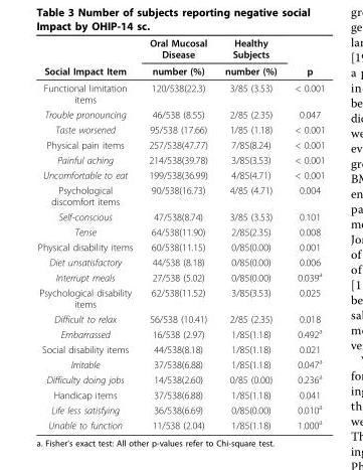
<table><thead><tr><td rowspan="2">Social Impact Item</td><td rowspan="2">Oral Mucosal Disease number (%)</td><td rowspan="2">Healthy Subjects number (%)</td><td rowspan="2">p</td></tr><tr></tr></thead><tbody><tr><td>Functional limitation items</td><td>120/538(22.3)</td><td>3/85 (3.53)</td><td>&lt; 0.001</td></tr><tr><td>Trouble pronouncing</td><td>46/538 (8.55)</td><td>2/85 (2.35)</td><td>0.047</td></tr><tr><td>Taste worsened</td><td>95/538 (17.66)</td><td>1/85 (1.18)</td><td>&lt; 0.001</td></tr><tr><td>Physical pain items</td><td>257/538(47.77)</td><td>7/85(8.24)</td><td>&lt; 0.001</td></tr><tr><td>Painful aching</td><td>214/538(39.78)</td><td>3/85(3.53)</td><td>&lt; 0.001</td></tr><tr><td>Uncomfortable to eat</td><td>199/538(36.99)</td><td>4/85(4.71)</td><td>&lt; 0.001</td></tr><tr><td>Psychological discomfort items</td><td>90/538(16.73)</td><td>4/85 (4.71)</td><td>0.004</td></tr><tr><td>Self-conscious</td><td>47/538(8.74)</td><td>3/85 (3.53)</td><td>0.101</td></tr><tr><td>Tense</td><td>64/538(11.90)</td><td>2/85(2.35)</td><td>0.008</td></tr><tr><td>Physical disability items</td><td>60/538(11.15)</td><td>0/85(0.00)</td><td>0.001</td></tr><tr><td>Diet unsatisfactory</td><td>44/538 (8.18)</td><td>0/85(0.00)</td><td>0.006</td></tr><tr><td>Interrupt meals</td><td>27/538 (5.02)</td><td>0/85(0.00)</td><td>0.039<sup>a</sup></td></tr><tr><td>Psychological disability items</td><td>62/538(11.52)</td><td>3/85(3.53)</td><td>0.025</td></tr><tr><td>Difficult to relax</td><td>56/538 (10.41)</td><td>2/85 (2.35)</td><td>0.018</td></tr><tr><td>Embarrassed</td><td>16/538 (2.97)</td><td>1/85(1.18)</td><td>0.492<sup>a</sup></td></tr><tr><td>Social disability items</td><td>44/538(8.18)</td><td>1/85(1.18)</td><td>0.021</td></tr><tr><td>Irritable</td><td>37/538(6.88)</td><td>1/85(1.18)</td><td>0.047<sup>a</sup></td></tr><tr><td>Difficulty doing jobs</td><td>14/538(2.60)</td><td>0/85 (0.00)</td><td>0.236<sup>a</sup></td></tr><tr><td>Handicap items</td><td>37/538(6.88)</td><td>1/85(1.18)</td><td>0.041</td></tr><tr><td>Life less satisfying</td><td>36/538(6.69)</td><td>0/85(0.00)</td><td>0.010<sup>a</sup></td></tr><tr><td>Unable to function</td><td>11/538 (2.04)</td><td>1/85(1.18)</td><td>1.000<sup>a</sup></td></tr></tbody></table>